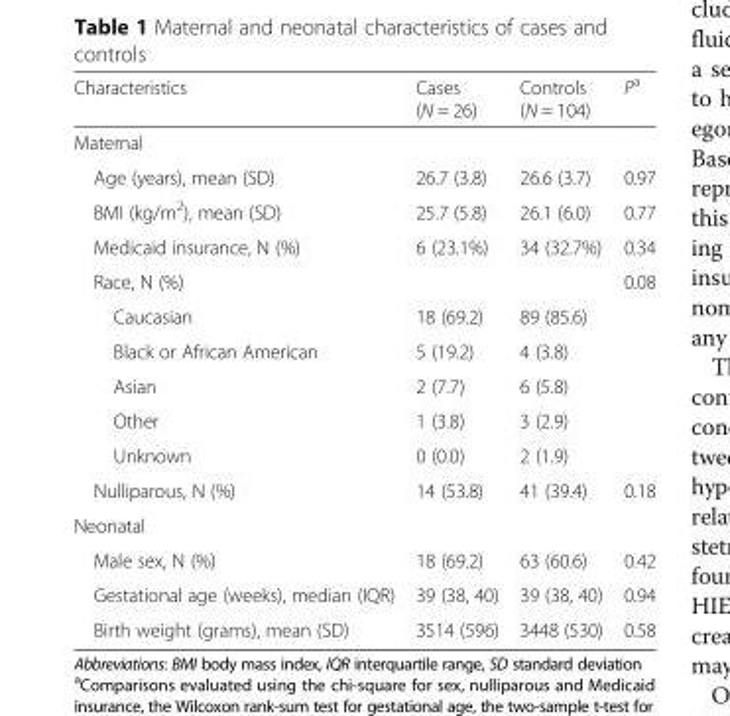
<table><thead><tr><td>Characteristics</td><td>Cases (N = 26)</td><td>Controls (N = 104)</td><td>P<sup>a</sup></td></tr></thead><tbody><tr><td colspan="4">Maternal</td></tr><tr><td>Age (years), mean (SD)</td><td>26.7 (3.8)</td><td>26.6 (3.7)</td><td>0.97</td></tr><tr><td>BMI (kg/m<sup>2</sup>), mean (SD)</td><td>25.7 (5.8)</td><td>26.1 (6.0)</td><td>0.77</td></tr><tr><td>Medicaid insurance, N (%)</td><td>6 (23.1%)</td><td>34 (32.7%)</td><td>0.34</td></tr><tr><td>Race, N (%)</td><td></td><td></td><td>0.08</td></tr><tr><td>Caucasian</td><td>18 (69.2)</td><td>89 (85.6)</td><td></td></tr><tr><td>Black or African American</td><td>5 (19.2)</td><td>4 (3.8)</td><td></td></tr><tr><td>Asian</td><td>2 (7.7)</td><td>6 (5.8)</td><td></td></tr><tr><td>Other</td><td>1 (3.8)</td><td>3 (2.9)</td><td></td></tr><tr><td>Unknown</td><td>0 (0.0)</td><td>2 (1.9)</td><td></td></tr><tr><td>Nulliparous, N (%)</td><td>14 (53.8)</td><td>41 (39.4)</td><td>0.18</td></tr><tr><td colspan="4">Neonatal</td></tr><tr><td>Male sex, N (%)</td><td>18 (69.2)</td><td>63 (60.6)</td><td>0.42</td></tr><tr><td>Gestational age (weeks), median (IQR)</td><td>39 (38, 40)</td><td>39 (38, 40)</td><td>0.94</td></tr><tr><td>Birth weight (grams), mean (SD)</td><td>3514 (596)</td><td>3448 (530)</td><td>0.58</td></tr></tbody></table>